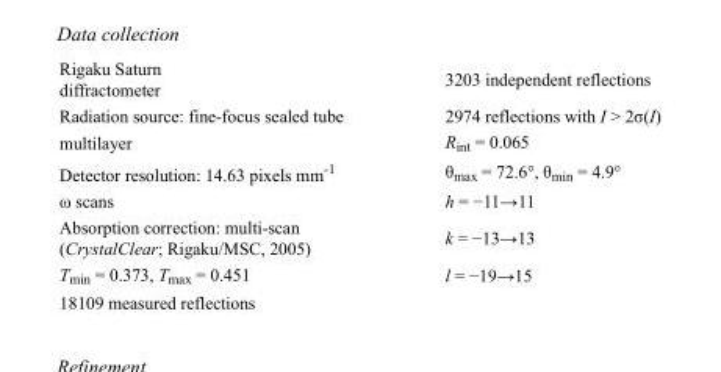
<table><tbody><tr><td>Rigaku Saturn diffractometer</td><td>3203 independent reflections</td></tr><tr><td>Radiation source: fine-focus sealed tube</td><td>2974 reflections with I &gt; 2σ(I)</td></tr><tr><td>multilayer</td><td>R<sub>int</sub> = 0.065</td></tr><tr><td>Detector resolution: 14.63 pixels mm<sup>-1</sup></td><td>θ<sub>max</sub> = 72.6°, θ<sub>min</sub> = 4.9°</td></tr><tr><td>ω scans</td><td>h = −11→11</td></tr><tr><td>Absorption correction: multi-scan (CrystalClear; Rigaku/MSC, 2005)</td><td>k = −13→13</td></tr><tr><td>T<sub>min</sub> = 0.373, T<sub>max</sub> = 0.451</td><td>l = −19→15</td></tr><tr><td>18109 measured reflections</td><td></td></tr></tbody></table>